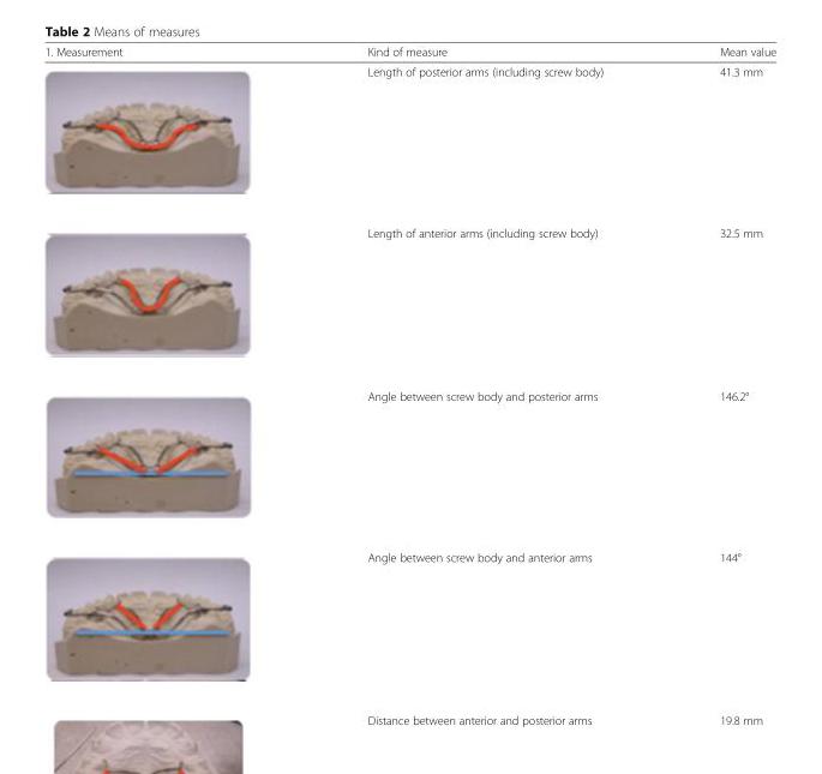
<table><thead><tr><td>1. Measurement</td><td>Kind of measure</td><td>Mean value</td></tr></thead><tbody><tr><td></td><td>Length of posterior arms (including screw body)</td><td>41.3 mm</td></tr><tr><td></td><td>Length of anterior arms (including screw body)</td><td>32.5 mm</td></tr><tr><td></td><td>Angle between screw body and posterior arms</td><td>146.2°</td></tr><tr><td></td><td>Angle between screw body and anterior arms</td><td>144°</td></tr><tr><td></td><td>Distance between anterior and posterior arms</td><td>19.8 mm</td></tr></tbody></table>